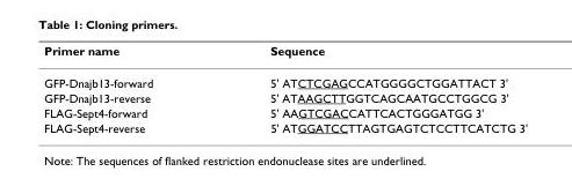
<table><thead><tr><td>Primer name</td><td>Sequence</td></tr></thead><tbody><tr><td>GFP-Dnajb13-forward</td><td>5&#x27; ATCTCGAGCCATGGGGCTGGATTACT 3&#x27;</td></tr><tr><td>GFP-Dnajb13-reverse</td><td>5&#x27; ATAAGCTTGGTCAGCAATGCCTGGCG 3&#x27;</td></tr><tr><td>FLAG-Sept4-forward</td><td>5&#x27; AAGTCGACCATTCACTGGGATGG 3&#x27;</td></tr><tr><td>FLAG-Sept4-reverse</td><td>5&#x27; ATGGATCCTTAGTGAGTCTCCTTCATCTG 3&#x27;</td></tr></tbody></table>